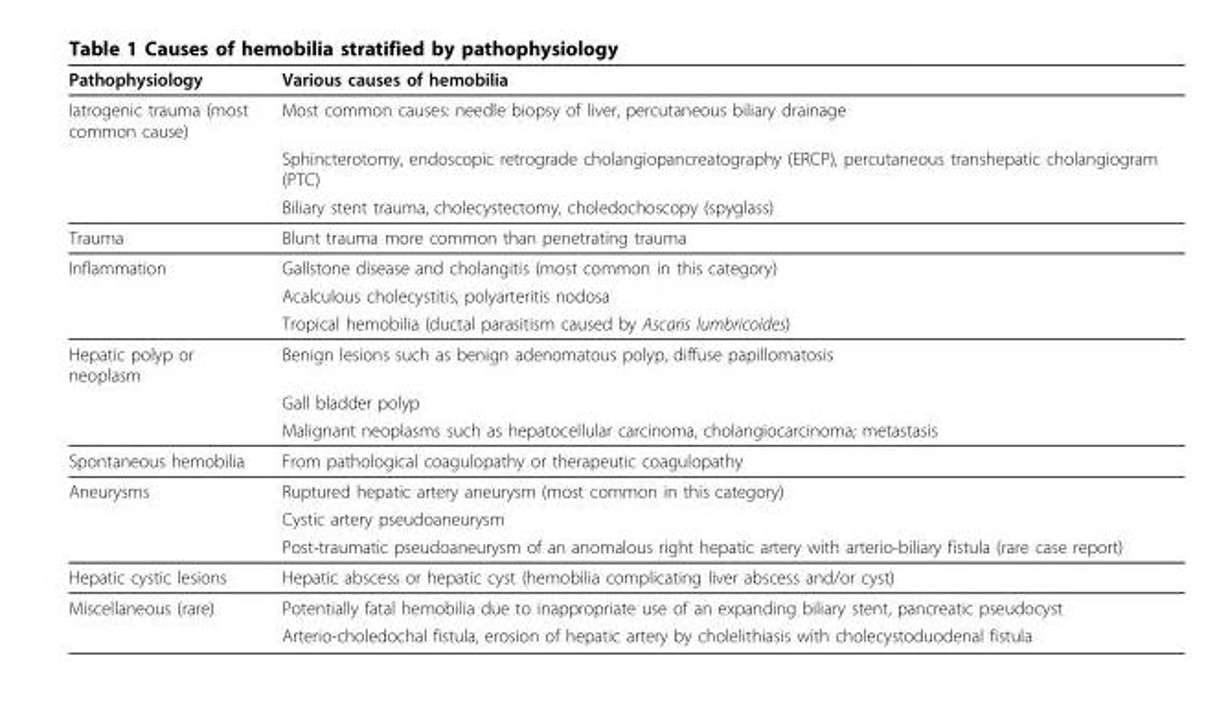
<table><thead><tr><td>Pathophysiology</td><td>Various causes of hemobilia</td></tr></thead><tbody><tr><td rowspan="3">Iatrogenic trauma (most common cause)</td><td>Most common causes: needle biopsy of liver, percutaneous biliary drainage</td></tr><tr><td>Sphincterotomy, endoscopic retrograde cholangiopancreatography (ERCP), percutaneous transhepatic cholangiogram (PTC)</td></tr><tr><td>Biliary stent trauma, cholecystectomy, choledochoscopy (spyglass)</td></tr><tr><td>Trauma</td><td>Blunt trauma more common than penetrating trauma</td></tr><tr><td rowspan="3">Inflammation</td><td>Gallstone disease and cholangitis (most common in this category)</td></tr><tr><td>Acalculous cholecystitis, polyarteritis nodosa</td></tr><tr><td>Tropical hemobilia (ductal parasitism caused by Ascaris lumbricoides)</td></tr><tr><td rowspan="3">Hepatic polyp or neoplasm</td><td>Benign lesions such as benign adenomatous polyp, diffuse papillomatosis</td></tr><tr><td>Gall bladder polyp</td></tr><tr><td>Malignant neoplasms such as hepatocellular carcinoma, cholangiocarcinoma; metastasis</td></tr><tr><td>Spontaneous hemobilia</td><td>From pathological coagulopathy or therapeutic coagulopathy</td></tr><tr><td rowspan="3">Aneurysms</td><td>Ruptured hepatic artery aneurysm (most common in this category)</td></tr><tr><td>Cystic artery pseudoaneurysm</td></tr><tr><td>Post-traumatic pseudoaneurysm of an anomalous right hepatic artery with arterio-biliary fistula (rare case report)</td></tr><tr><td>Hepatic cystic lesions</td><td>Hepatic abscess or hepatic cyst (hemobilia complicating liver abscess and/or cyst)</td></tr><tr><td rowspan="2">Miscellaneous (rare)</td><td>Potentially fatal hemobilia due to inappropriate use of an expanding biliary stent, pancreatic pseudocyst</td></tr><tr><td>Arterio-choledochal fistula, erosion of hepatic artery by cholelithiasis with cholecystoduodenal fistula</td></tr></tbody></table>